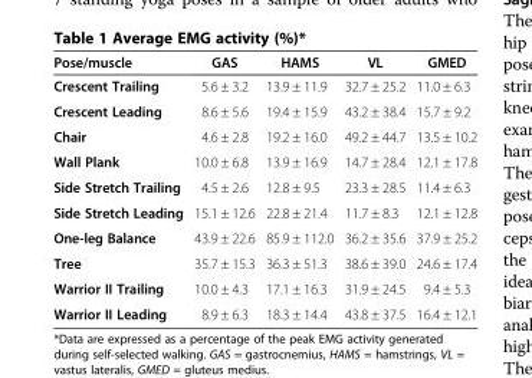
<table><thead><tr><td>Pose/muscle</td><td>GAS</td><td>HAMS</td><td>VL</td><td>GMED</td></tr></thead><tbody><tr><td>Crescent Trailing</td><td>5.6 ± 3.2</td><td>13.9 ± 11.9</td><td>32.7 ± 25.2</td><td>11.0 ± 6.3</td></tr><tr><td>Crescent Leading</td><td>8.6 ± 5.6</td><td>19.4 ± 15.9</td><td>43.2 ± 38.4</td><td>15.7 ± 9.2</td></tr><tr><td>Chair</td><td>4.6 ± 2.8</td><td>19.2 ± 16.0</td><td>49.2 ± 44.7</td><td>13.5 ± 10.2</td></tr><tr><td>Wall Plank</td><td>10.0 ± 6.8</td><td>13.9 ± 16.9</td><td>14.7 ± 28.4</td><td>12.1 ± 17.8</td></tr><tr><td>Side Stretch Trailing</td><td>4.5 ± 2.6</td><td>12.8 ± 9.5</td><td>23.3 ± 28.5</td><td>11.4 ± 6.3</td></tr><tr><td>Side Stretch Leading</td><td>15.1 ± 12.6</td><td>22.8 ± 21.4</td><td>11.7 ± 8.3</td><td>12.1 ± 12.8</td></tr><tr><td>One-leg Balance</td><td>43.9 ± 22.6</td><td>85.9 ± 112.0</td><td>36.2 ± 35.6</td><td>37.9 ± 25.2</td></tr><tr><td>Tree</td><td>35.7 ± 15.3</td><td>36.3 ± 51.3</td><td>38.6 ± 39.0</td><td>24.6 ± 17.4</td></tr><tr><td>Warrior II Trailing</td><td>10.0 ± 4.3</td><td>17.1 ± 16.3</td><td>31.9 ± 24.5</td><td>9.4 ± 5.3</td></tr><tr><td>Warrior II Leading</td><td>8.9 ± 6.3</td><td>18.3 ± 14.4</td><td>43.8 ± 37.5</td><td>16.4 ± 12.1</td></tr></tbody></table>